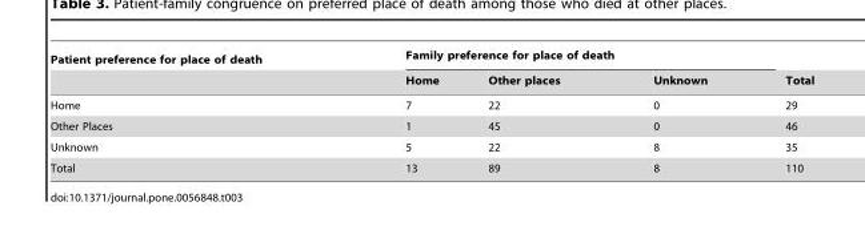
<table><thead><tr><td rowspan="2">Patient preference for place of death</td><td colspan="3">Family preference for place of death</td><td rowspan="2">Total</td></tr><tr><td>Home</td><td>Other places</td><td>Unknown</td></tr></thead><tbody><tr><td>Home</td><td>7</td><td>22</td><td>0</td><td>29</td></tr><tr><td>Other Places</td><td>1</td><td>45</td><td>0</td><td>46</td></tr><tr><td>Unknown</td><td>5</td><td>22</td><td>8</td><td>35</td></tr><tr><td>Total</td><td>13</td><td>89</td><td>8</td><td>110</td></tr></tbody></table>